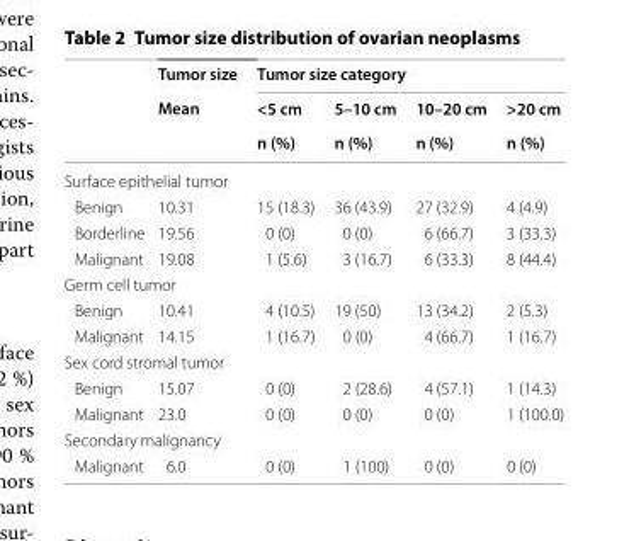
<table><thead><tr><td rowspan="3"></td><td rowspan="3">Tumor size Mean</td><td colspan="4">Tumor size category</td></tr><tr><td rowspan="2">&lt;5 cm n (%)</td><td rowspan="2">5–10 cm n (%)</td><td rowspan="2">10–20 cm n (%)</td><td rowspan="2">&gt;20 cm n (%)</td></tr><tr></tr></thead><tbody><tr><td colspan="6">Surface epithelial tumor</td></tr><tr><td>Benign</td><td>10.31</td><td>15 (18.3)</td><td>36 (43.9)</td><td>27 (32.9)</td><td>4 (4.9)</td></tr><tr><td>Borderline</td><td>19.56</td><td>0 (0)</td><td>0 (0)</td><td>6 (66.7)</td><td>3 (33.3)</td></tr><tr><td>Malignant</td><td>19.08</td><td>1 (5.6)</td><td>3 (16.7)</td><td>6 (33.3)</td><td>8 (44.4)</td></tr><tr><td colspan="6">Germ cell tumor</td></tr><tr><td>Benign</td><td>10.41</td><td>4 (10.5)</td><td>19 (50)</td><td>13 (34.2)</td><td>2 (5.3)</td></tr><tr><td>Malignant</td><td>14.15</td><td>1 (16.7)</td><td>0 (0)</td><td>4 (66.7)</td><td>1 (16.7)</td></tr><tr><td colspan="6">Sex cord stromal tumor</td></tr><tr><td>Benign</td><td>15.07</td><td>0 (0)</td><td>2 (28.6)</td><td>4 (57.1)</td><td>1 (14.3)</td></tr><tr><td>Malignant</td><td>23.0</td><td>0 (0)</td><td>0 (0)</td><td>0 (0)</td><td>1 (100.0)</td></tr><tr><td colspan="6">Secondary malignancy</td></tr><tr><td>Malignant</td><td>6.0</td><td>0 (0)</td><td>1 (100)</td><td>0 (0)</td><td>0 (0)</td></tr></tbody></table>